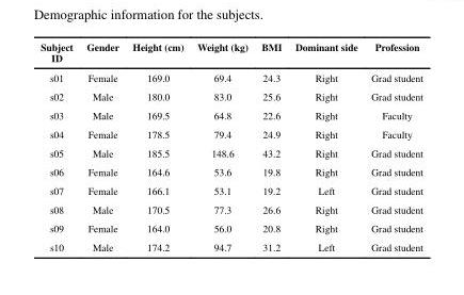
<table><thead><tr><td>Subject ID</td><td>Gender</td><td>Height (cm)</td><td>Weight (kg)</td><td>BMI</td><td>Dominant side</td><td>Profession</td></tr></thead><tbody><tr><td>s01</td><td>Female</td><td>169.0</td><td>69.4</td><td>24.3</td><td>Right</td><td>Grad student</td></tr><tr><td>s02</td><td>Male</td><td>180.0</td><td>83.0</td><td>25.6</td><td>Right</td><td>Grad student</td></tr><tr><td>s03</td><td>Male</td><td>169.5</td><td>64.8</td><td>22.6</td><td>Right</td><td>Faculty</td></tr><tr><td>s04</td><td>Female</td><td>178.5</td><td>79.4</td><td>24.9</td><td>Right</td><td>Faculty</td></tr><tr><td>s05</td><td>Male</td><td>185.5</td><td>148.6</td><td>43.2</td><td>Right</td><td>Grad student</td></tr><tr><td>s06</td><td>Female</td><td>164.6</td><td>53.6</td><td>19.8</td><td>Right</td><td>Grad student</td></tr><tr><td>s07</td><td>Female</td><td>166.1</td><td>53.1</td><td>19.2</td><td>Left</td><td>Grad student</td></tr><tr><td>s08</td><td>Male</td><td>170.5</td><td>77.3</td><td>26.6</td><td>Right</td><td>Grad student</td></tr><tr><td>s09</td><td>Female</td><td>164.0</td><td>56.0</td><td>20.8</td><td>Right</td><td>Grad student</td></tr><tr><td>s10</td><td>Male</td><td>174.2</td><td>94.7</td><td>31.2</td><td>Left</td><td>Grad student</td></tr></tbody></table>